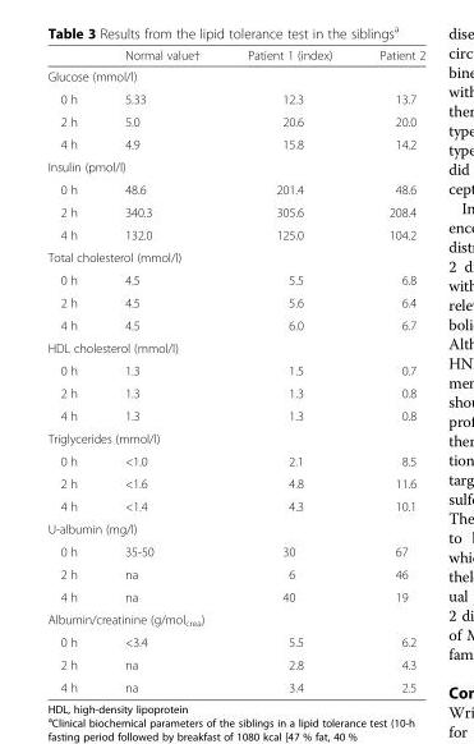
<table><thead><tr><td></td><td>Normal value†</td><td>Patient 1 (index)</td><td>Patient 2</td></tr></thead><tbody><tr><td colspan="4">Glucose (mmol/l)</td></tr><tr><td>0 h</td><td>5.33</td><td>12.3</td><td>13.7</td></tr><tr><td>2 h</td><td>5.0</td><td>20.6</td><td>20.0</td></tr><tr><td>4 h</td><td>4.9</td><td>15.8</td><td>14.2</td></tr><tr><td colspan="4">Insulin (pmol/l)</td></tr><tr><td>0 h</td><td>48.6</td><td>201.4</td><td>48.6</td></tr><tr><td>2 h</td><td>340.3</td><td>305.6</td><td>208.4</td></tr><tr><td>4 h</td><td>132.0</td><td>125.0</td><td>104.2</td></tr><tr><td colspan="4">Total cholesterol (mmol/l)</td></tr><tr><td>0 h</td><td>4.5</td><td>5.5</td><td>6.8</td></tr><tr><td>2 h</td><td>4.5</td><td>5.6</td><td>6.4</td></tr><tr><td>4 h</td><td>4.5</td><td>6.0</td><td>6.7</td></tr><tr><td colspan="4">HDL cholesterol (mmol/l)</td></tr><tr><td>0 h</td><td>1.3</td><td>1.5</td><td>0.7</td></tr><tr><td>2 h</td><td>1.3</td><td>1.3</td><td>0.8</td></tr><tr><td>4 h</td><td>1.3</td><td>1.3</td><td>0.8</td></tr><tr><td colspan="4">Triglycerides (mmol/l)</td></tr><tr><td>0 h</td><td>&lt;1.0</td><td>2.1</td><td>8.5</td></tr><tr><td>2 h</td><td>&lt;1.6</td><td>4.8</td><td>11.6</td></tr><tr><td>4 h</td><td>&lt;1.4</td><td>4.3</td><td>10.1</td></tr><tr><td colspan="4">U-albumin (mg/l)</td></tr><tr><td>0 h</td><td>35-50</td><td>30</td><td>67</td></tr><tr><td>2 h</td><td>na</td><td>6</td><td>46</td></tr><tr><td>4 h</td><td>na</td><td>40</td><td>19</td></tr><tr><td colspan="4">Albumin/creatinine (g/mol<sub>crea</sub>)</td></tr><tr><td>0 h</td><td>&lt;3.4</td><td>5.5</td><td>6.2</td></tr><tr><td>2 h</td><td>na</td><td>2.8</td><td>4.3</td></tr><tr><td>4 h</td><td>na</td><td>3.4</td><td>2.5</td></tr></tbody></table>